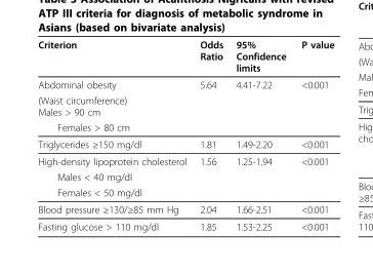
<table><thead><tr><td>Criterion</td><td>Odds Ratio</td><td>95% Confidence limits</td><td>P value</td></tr></thead><tbody><tr><td>Abdominal obesity</td><td>5.64</td><td>4.41-7.22</td><td>&lt;0.001</td></tr><tr><td colspan="4">(Waist circumference) Males &gt; 90 cm</td></tr><tr><td colspan="4">Females &gt; 80 cm</td></tr><tr><td>Triglycerides ≥150 mg/dl</td><td>1.81</td><td>1.49-2.20</td><td>&lt;0.001</td></tr><tr><td>High-density lipoprotein cholesterol</td><td>1.56</td><td>1.25-1.94</td><td>&lt;0.001</td></tr><tr><td colspan="4">Males &lt; 40 mg/dl</td></tr><tr><td colspan="4">Females &lt; 50 mg/dl</td></tr><tr><td>Blood pressure ≥130/≥85 mm Hg</td><td>2.04</td><td>1.66-2.51</td><td>&lt;0.001</td></tr><tr><td>Fasting glucose &gt; 110 mg/dl</td><td>1.85</td><td>1.53-2.25</td><td>&lt;0.001</td></tr></tbody></table>